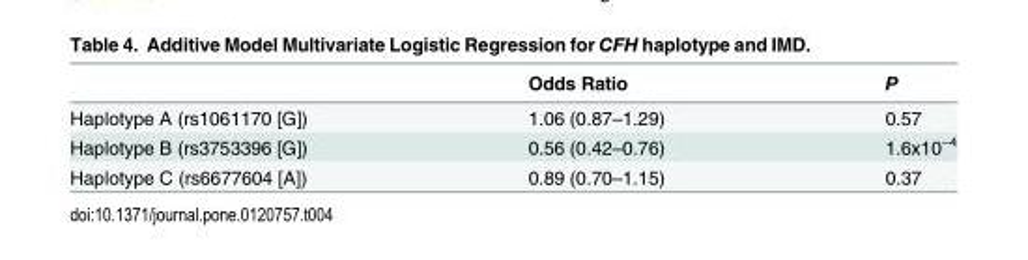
<table><thead><tr><td></td><td>Odds Ratio</td><td>P</td></tr></thead><tbody><tr><td>Haplotype A (rs1061170 [G])</td><td>1.06 (0.87–1.29)</td><td>0.57</td></tr><tr><td>Haplotype B (rs3753396 [G])</td><td>0.56 (0.42–0.76)</td><td>1.6x10<sup>−4</sup></td></tr><tr><td>Haplotype C (rs6677604 [A])</td><td>0.89 (0.70–1.15)</td><td>0.37</td></tr></tbody></table>